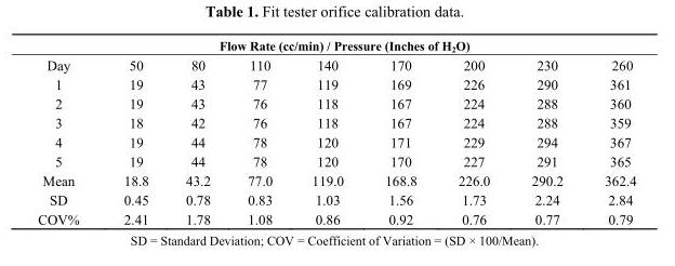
<table><thead><tr><td rowspan="2">Day</td><td colspan="7">Flow Rate (cc/min) / Pressure (Inches of H<sub>2</sub>O)</td><td rowspan="2">260</td></tr><tr><td>50</td><td>80</td><td>110</td><td>140</td><td>170</td><td>200</td><td>230</td></tr></thead><tbody><tr><td>1</td><td>19</td><td>43</td><td>77</td><td>119</td><td>169</td><td>226</td><td>290</td><td>361</td></tr><tr><td>2</td><td>19</td><td>43</td><td>76</td><td>118</td><td>167</td><td>224</td><td>288</td><td>360</td></tr><tr><td>3</td><td>18</td><td>42</td><td>76</td><td>118</td><td>167</td><td>224</td><td>288</td><td>359</td></tr><tr><td>4</td><td>19</td><td>44</td><td>78</td><td>120</td><td>171</td><td>229</td><td>294</td><td>367</td></tr><tr><td>5</td><td>19</td><td>44</td><td>78</td><td>120</td><td>170</td><td>227</td><td>291</td><td>365</td></tr><tr><td>Mean</td><td>18.8</td><td>43.2</td><td>77.0</td><td>119.0</td><td>168.8</td><td>226.0</td><td>290.2</td><td>362.4</td></tr><tr><td>SD</td><td>0.45</td><td>0.78</td><td>0.83</td><td>1.03</td><td>1.56</td><td>1.73</td><td>2.24</td><td>2.84</td></tr><tr><td>COV%</td><td>2.41</td><td>1.78</td><td>1.08</td><td>0.86</td><td>0.92</td><td>0.76</td><td>0.77</td><td>0.79</td></tr></tbody></table>